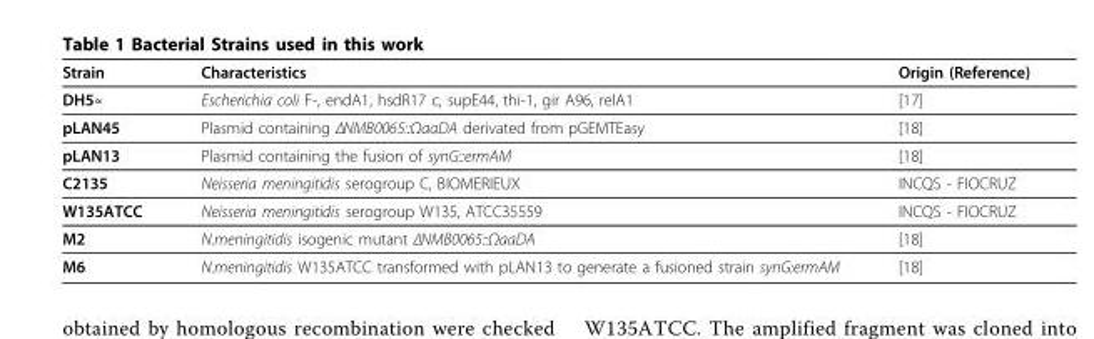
<table><thead><tr><td>Strain</td><td>Characteristics</td><td>Origin (Reference)</td></tr></thead><tbody><tr><td>DH5∝</td><td>Escherichia coli F-, endA1, hsdR17 c, supE44, thi-1, gir A96, relA1</td><td>[17]</td></tr><tr><td>pLAN45</td><td>Plasmid containing ΔNMB0065::ΩaaDA derivated from pGEMTEasy</td><td>[18]</td></tr><tr><td>pLAN13</td><td>Plasmid containing the fusion of synG::ermAM</td><td>[18]</td></tr><tr><td>C2135</td><td>Neisseria meningitidis serogroup C, BIOMERIEUX</td><td>INCQS - FIOCRUZ</td></tr><tr><td>W135ATCC</td><td>Neisseria meningitidis serogroup W135, ATCC35559</td><td>INCQS - FIOCRUZ</td></tr><tr><td>M2</td><td>N.meningitidis isogenic mutant ΔNMB0065::ΩaaDA</td><td>[18]</td></tr><tr><td>M6</td><td>N.meningitidis W135ATCC transformed with pLAN13 to generate a fusioned strain synG:ermAM</td><td>[18]</td></tr></tbody></table>